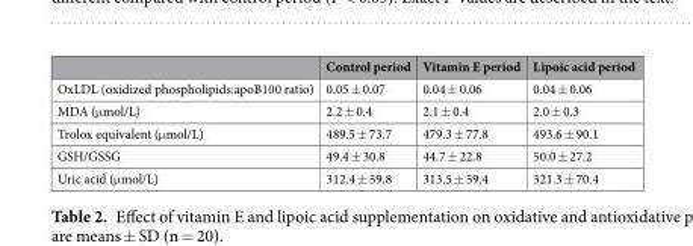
<table><thead><tr><td></td><td>Control period</td><td>Vitamin E period</td><td>Lipoic acid period</td></tr></thead><tbody><tr><td>OxLDL (oxidized phospholipids:apoB100 ratio)</td><td>0.05 ± 0.07</td><td>0.04 ± 0.06</td><td>0.04 ± 0.06</td></tr><tr><td>MDA (μmol/L)</td><td>2.2 ± 0.4</td><td>2.1 ± 0.4</td><td>2.0 ± 0.3</td></tr><tr><td>Trolox equivalent (μmol/L)</td><td>489.5 ± 73.7</td><td>479.3 ± 77.8</td><td>493.6 ± 90.1</td></tr><tr><td>GSH/GSSG</td><td>49.4 ± 30.8</td><td>44.7 ± 22.8</td><td>50.0 ± 27.2</td></tr><tr><td>Uric acid (μmol/L)</td><td>312.4 ± 59.8</td><td>313.5 ± 59.4</td><td>321.3 ± 70.4</td></tr></tbody></table>